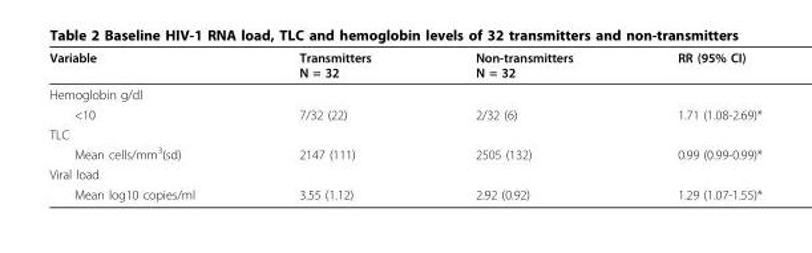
<table><thead><tr><td>Variable</td><td>Transmitters N = 32</td><td>Non-transmitters N = 32</td><td>RR (95% CI)</td></tr></thead><tbody><tr><td colspan="4">Hemoglobin g/dl</td></tr><tr><td>&lt;10</td><td>7/32 (22)</td><td>2/32 (6)</td><td>1.71 (1.08-2.69)*</td></tr><tr><td colspan="4">TLC</td></tr><tr><td>Mean cells/mm<sup>3</sup>(sd)</td><td>2147 (111)</td><td>2505 (132)</td><td>0.99 (0.99-0.99)*</td></tr><tr><td colspan="4">Viral load</td></tr><tr><td>Mean log10 copies/ml</td><td>3.55 (1.12)</td><td>2.92 (0.92)</td><td>1.29 (1.07-1.55)*</td></tr></tbody></table>